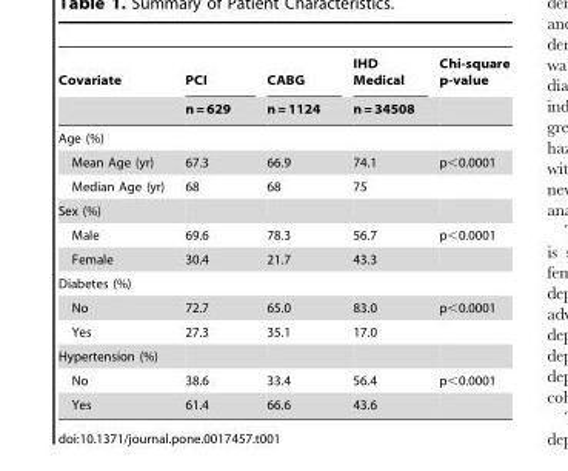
<table><thead><tr><td rowspan="2">Covariate</td><td rowspan="2">PCI n = 629</td><td rowspan="2">CABG n = 1124</td><td rowspan="2">IHD Medical n = 34508</td><td rowspan="2">Chi-square p-value</td></tr><tr></tr></thead><tbody><tr><td colspan="5">Age (%)</td></tr><tr><td>Mean Age (yr)</td><td>67.3</td><td>66.9</td><td>74.1</td><td>p&lt;0.0001</td></tr><tr><td>Median Age (yr)</td><td>68</td><td>68</td><td>75</td><td></td></tr><tr><td colspan="5">Sex (%)</td></tr><tr><td>Male</td><td>69.6</td><td>78.3</td><td>56.7</td><td>p&lt;0.0001</td></tr><tr><td>Female</td><td>30.4</td><td>21.7</td><td>43.3</td><td></td></tr><tr><td colspan="5">Diabetes (%)</td></tr><tr><td>No</td><td>72.7</td><td>65.0</td><td>83.0</td><td>p&lt;0.0001</td></tr><tr><td>Yes</td><td>27.3</td><td>35.1</td><td>17.0</td><td></td></tr><tr><td colspan="5">Hypertension (%)</td></tr><tr><td>No</td><td>38.6</td><td>33.4</td><td>56.4</td><td>p&lt;0.0001</td></tr><tr><td>Yes</td><td>61.4</td><td>66.6</td><td>43.6</td><td></td></tr></tbody></table>